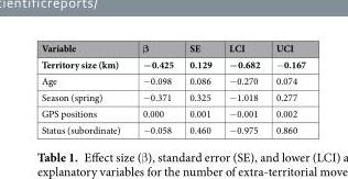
<table><thead><tr><td>Variable</td><td>β</td><td>SE</td><td>LCI</td><td>UCI</td></tr></thead><tbody><tr><td>Territory size (km)</td><td>−0.425</td><td>0.129</td><td>−0.682</td><td>−0.167</td></tr><tr><td>Age</td><td>−0.098</td><td>0.086</td><td>−0.270</td><td>0.074</td></tr><tr><td>Season (spring)</td><td>−0.371</td><td>0.325</td><td>−1.018</td><td>0.277</td></tr><tr><td>GPS positions</td><td>0.000</td><td>0.001</td><td>−0.001</td><td>0.002</td></tr><tr><td>Status (subordinate)</td><td>−0.058</td><td>0.460</td><td>−0.975</td><td>0.860</td></tr></tbody></table>